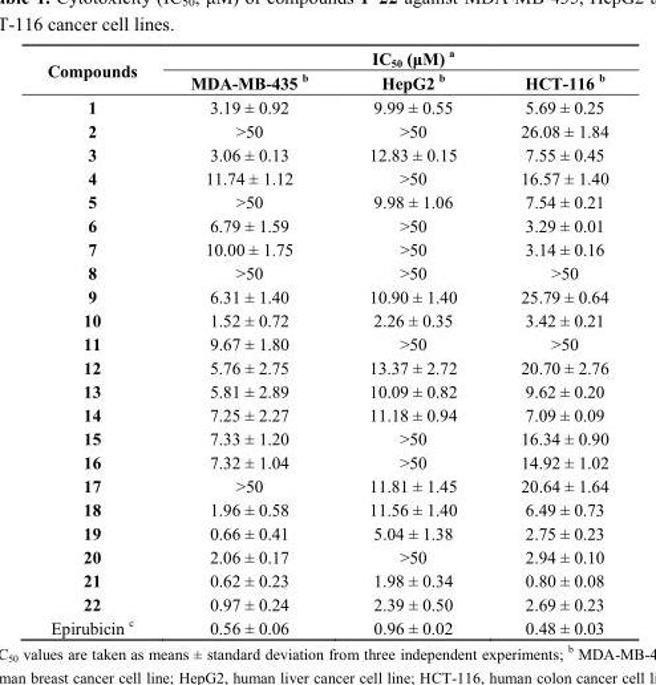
<table><thead><tr><td rowspan="2">Compounds</td><td rowspan="2">MDA-MB-435 <sup>b</sup></td><td rowspan="2">IC<sub>50</sub> (μM) <sup>a</sup> HepG2 <sup>b</sup></td><td rowspan="2">HCT-116 <sup>b</sup></td></tr><tr></tr></thead><tbody><tr><td>1</td><td>3.19 ± 0.92</td><td>9.99 ± 0.55</td><td>5.69 ± 0.25</td></tr><tr><td>2</td><td>&gt;50</td><td>&gt;50</td><td>26.08 ± 1.84</td></tr><tr><td>3</td><td>3.06 ± 0.13</td><td>12.83 ± 0.15</td><td>7.55 ± 0.45</td></tr><tr><td>4</td><td>11.74 ± 1.12</td><td>&gt;50</td><td>16.57 ± 1.40</td></tr><tr><td>5</td><td>&gt;50</td><td>9.98 ± 1.06</td><td>7.54 ± 0.21</td></tr><tr><td>6</td><td>6.79 ± 1.59</td><td>&gt;50</td><td>3.29 ± 0.01</td></tr><tr><td>7</td><td>10.00 ± 1.75</td><td>&gt;50</td><td>3.14 ± 0.16</td></tr><tr><td>8</td><td>&gt;50</td><td>&gt;50</td><td>&gt;50</td></tr><tr><td>9</td><td>6.31 ± 1.40</td><td>10.90 ± 1.40</td><td>25.79 ± 0.64</td></tr><tr><td>10</td><td>1.52 ± 0.72</td><td>2.26 ± 0.35</td><td>3.42 ± 0.21</td></tr><tr><td>11</td><td>9.67 ± 1.80</td><td>&gt;50</td><td>&gt;50</td></tr><tr><td>12</td><td>5.76 ± 2.75</td><td>13.37 ± 2.72</td><td>20.70 ± 2.76</td></tr><tr><td>13</td><td>5.81 ± 2.89</td><td>10.09 ± 0.82</td><td>9.62 ± 0.20</td></tr><tr><td>14</td><td>7.25 ± 2.27</td><td>11.18 ± 0.94</td><td>7.09 ± 0.09</td></tr><tr><td>15</td><td>7.33 ± 1.20</td><td>&gt;50</td><td>16.34 ± 0.90</td></tr><tr><td>16</td><td>7.32 ± 1.04</td><td>&gt;50</td><td>14.92 ± 1.02</td></tr><tr><td>17</td><td>&gt;50</td><td>11.81 ± 1.45</td><td>20.64 ± 1.64</td></tr><tr><td>18</td><td>1.96 ± 0.58</td><td>11.56 ± 1.40</td><td>6.49 ± 0.73</td></tr><tr><td>19</td><td>0.66 ± 0.41</td><td>5.04 ± 1.38</td><td>2.75 ± 0.23</td></tr><tr><td>20</td><td>2.06 ± 0.17</td><td>&gt;50</td><td>2.94 ± 0.10</td></tr><tr><td>21</td><td>0.62 ± 0.23</td><td>1.98 ± 0.34</td><td>0.80 ± 0.08</td></tr><tr><td>22</td><td>0.97 ± 0.24</td><td>2.39 ± 0.50</td><td>2.69 ± 0.23</td></tr><tr><td>Epirubicin <sup>c</sup></td><td>0.56 ± 0.06</td><td>0.96 ± 0.02</td><td>0.48 ± 0.03</td></tr></tbody></table>